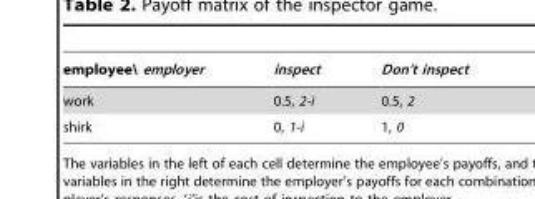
<table><thead><tr><td>employee\ employer</td><td>inspect</td><td>Don’t inspect</td></tr></thead><tbody><tr><td>work</td><td>0.5, 2-i</td><td>0.5, 2</td></tr><tr><td>shirk</td><td>0, 1-i</td><td>1, 0</td></tr></tbody></table>